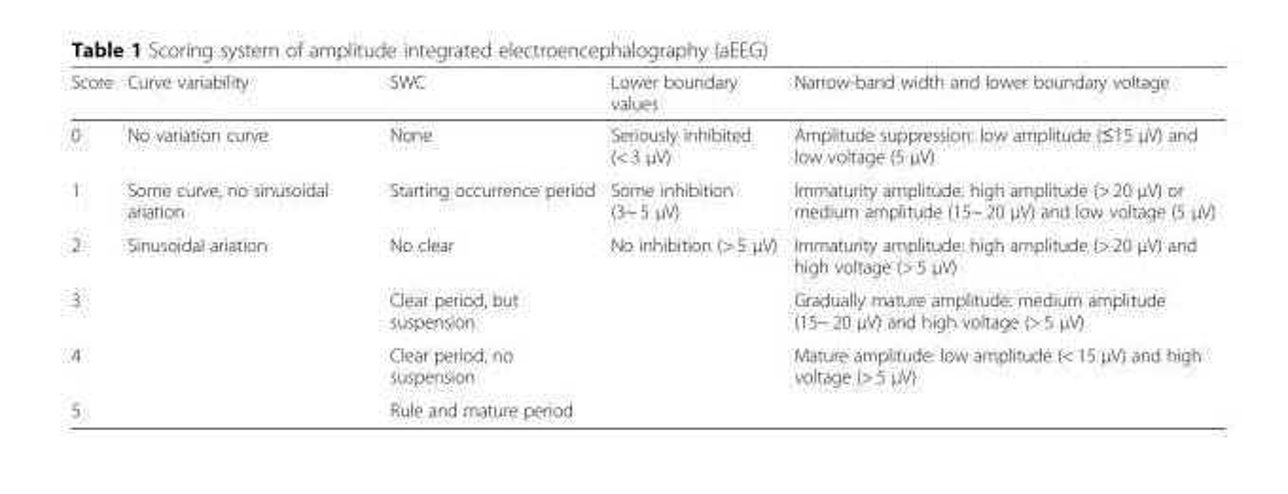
<table><thead><tr><td>Score</td><td>Curve variability</td><td>SWC</td><td>Lower boundary values</td><td>Narrow-band width and lower boundary voltage</td></tr></thead><tbody><tr><td>0</td><td>No variation curve</td><td>None</td><td>Seriously inhibited (&lt; 3 μV)</td><td>Amplitude suppression: low amplitude (≤15 μV) and low voltage (5 μV)</td></tr><tr><td>1</td><td>Some curve, no sinusoidal ariation</td><td>Starting occurrence period</td><td>Some inhibition (3~ 5 μV)</td><td>Immaturity amplitude: high amplitude (&gt; 20 μV) or medium amplitude (15~ 20 μV) and low voltage (5 μV)</td></tr><tr><td>2</td><td>Sinusoidal ariation</td><td>No clear</td><td>No inhibition (&gt; 5 μV)</td><td>Immaturity amplitude: high amplitude (&gt; 20 μV) and high voltage (&gt; 5 μV)</td></tr><tr><td>3</td><td></td><td>Clear period, but suspension</td><td></td><td>Gradually mature amplitude: medium amplitude (15~ 20 μV) and high voltage (&gt; 5 μV)</td></tr><tr><td>4</td><td></td><td>Clear period, no suspension</td><td></td><td>Mature amplitude: low amplitude (&lt; 15 μV) and high voltage (&gt; 5 μV)</td></tr><tr><td>5</td><td></td><td>Rule and mature period</td><td></td><td></td></tr></tbody></table>